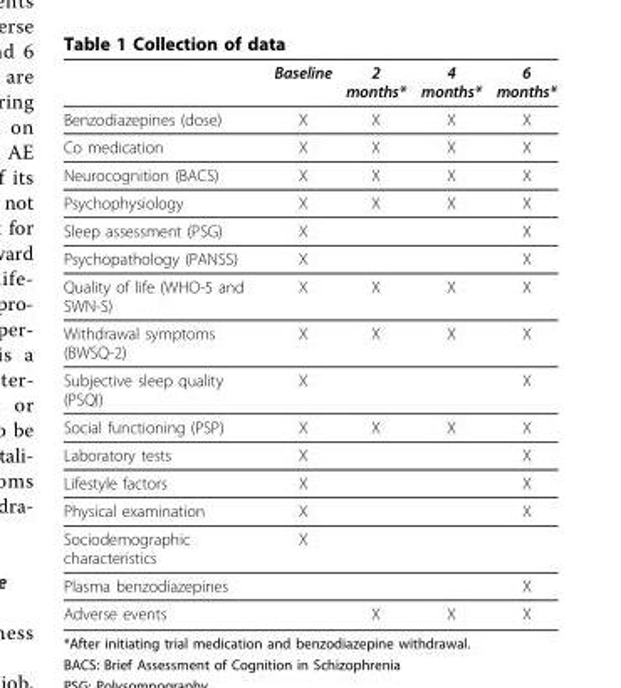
<table><thead><tr><td></td><td>Baseline</td><td>2 months*</td><td>4 months*</td><td>6 months*</td></tr></thead><tbody><tr><td>Benzodiazepines (dose)</td><td>X</td><td>X</td><td>X</td><td>X</td></tr><tr><td>Co medication</td><td>X</td><td>X</td><td>X</td><td>X</td></tr><tr><td>Neurocognition (BACS)</td><td>X</td><td>X</td><td>X</td><td>X</td></tr><tr><td>Psychophysiology</td><td>X</td><td>X</td><td>X</td><td>X</td></tr><tr><td>Sleep assessment (PSG)</td><td>X</td><td></td><td></td><td>X</td></tr><tr><td>Psychopathology (PANSS)</td><td>X</td><td></td><td></td><td>X</td></tr><tr><td>Quality of life (WHO-5 and SWN-S)</td><td>X</td><td>X</td><td>X</td><td>X</td></tr><tr><td>Withdrawal symptoms (BWSQ-2)</td><td>X</td><td>X</td><td>X</td><td>X</td></tr><tr><td>Subjective sleep quality (PSQI)</td><td>X</td><td></td><td></td><td>X</td></tr><tr><td>Social functioning (PSP)</td><td>X</td><td>X</td><td>X</td><td>X</td></tr><tr><td>Laboratory tests</td><td>X</td><td></td><td></td><td>X</td></tr><tr><td>Lifestyle factors</td><td>X</td><td></td><td></td><td>X</td></tr><tr><td>Physical examination</td><td>X</td><td></td><td></td><td>X</td></tr><tr><td>Sociodemographic characteristics</td><td>X</td><td></td><td></td><td></td></tr><tr><td>Plasma benzodiazepines</td><td></td><td></td><td></td><td>X</td></tr><tr><td>Adverse events</td><td></td><td>X</td><td>X</td><td>X</td></tr></tbody></table>